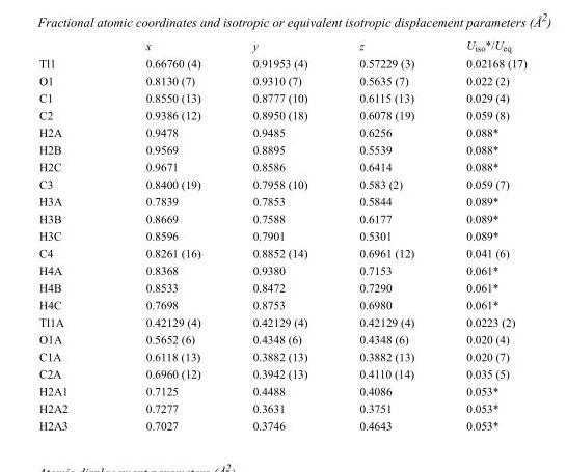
<table><thead><tr><td></td><td>x</td><td>y</td><td>z</td><td>U<sub>iso</sub>*/U<sub>eq</sub></td></tr></thead><tbody><tr><td>Tl1</td><td>0.66760 (4)</td><td>0.91953 (4)</td><td>0.57229 (3)</td><td>0.02168 (17)</td></tr><tr><td>O1</td><td>0.8130 (7)</td><td>0.9310 (7)</td><td>0.5635 (7)</td><td>0.022 (2)</td></tr><tr><td>C1</td><td>0.8550 (13)</td><td>0.8777 (10)</td><td>0.6115 (13)</td><td>0.029 (4)</td></tr><tr><td>C2</td><td>0.9386 (12)</td><td>0.8950 (18)</td><td>0.6078 (19)</td><td>0.059 (8)</td></tr><tr><td>H2A</td><td>0.9478</td><td>0.9485</td><td>0.6256</td><td>0.088*</td></tr><tr><td>H2B</td><td>0.9569</td><td>0.8895</td><td>0.5539</td><td>0.088*</td></tr><tr><td>H2C</td><td>0.9671</td><td>0.8586</td><td>0.6414</td><td>0.088*</td></tr><tr><td>C3</td><td>0.8400 (19)</td><td>0.7958 (10)</td><td>0.583 (2)</td><td>0.059 (7)</td></tr><tr><td>H3A</td><td>0.7839</td><td>0.7853</td><td>0.5844</td><td>0.089*</td></tr><tr><td>H3B</td><td>0.8669</td><td>0.7588</td><td>0.6177</td><td>0.089*</td></tr><tr><td>H3C</td><td>0.8596</td><td>0.7901</td><td>0.5301</td><td>0.089*</td></tr><tr><td>C4</td><td>0.8261 (16)</td><td>0.8852 (14)</td><td>0.6961 (12)</td><td>0.041 (6)</td></tr><tr><td>H4A</td><td>0.8368</td><td>0.9380</td><td>0.7153</td><td>0.061*</td></tr><tr><td>H4B</td><td>0.8533</td><td>0.8472</td><td>0.7290</td><td>0.061*</td></tr><tr><td>H4C</td><td>0.7698</td><td>0.8753</td><td>0.6980</td><td>0.061*</td></tr><tr><td>Tl1A</td><td>0.42129 (4)</td><td>0.42129 (4)</td><td>0.42129 (4)</td><td>0.0223 (2)</td></tr><tr><td>O1A</td><td>0.5652 (6)</td><td>0.4348 (6)</td><td>0.4348 (6)</td><td>0.020 (4)</td></tr><tr><td>C1A</td><td>0.6118 (13)</td><td>0.3882 (13)</td><td>0.3882 (13)</td><td>0.020 (7)</td></tr><tr><td>C2A</td><td>0.6960 (12)</td><td>0.3942 (13)</td><td>0.4110 (14)</td><td>0.035 (5)</td></tr><tr><td>H2A1</td><td>0.7125</td><td>0.4488</td><td>0.4086</td><td>0.053*</td></tr><tr><td>H2A2</td><td>0.7277</td><td>0.3631</td><td>0.3751</td><td>0.053*</td></tr><tr><td>H2A3</td><td>0.7027</td><td>0.3746</td><td>0.4643</td><td>0.053*</td></tr></tbody></table>